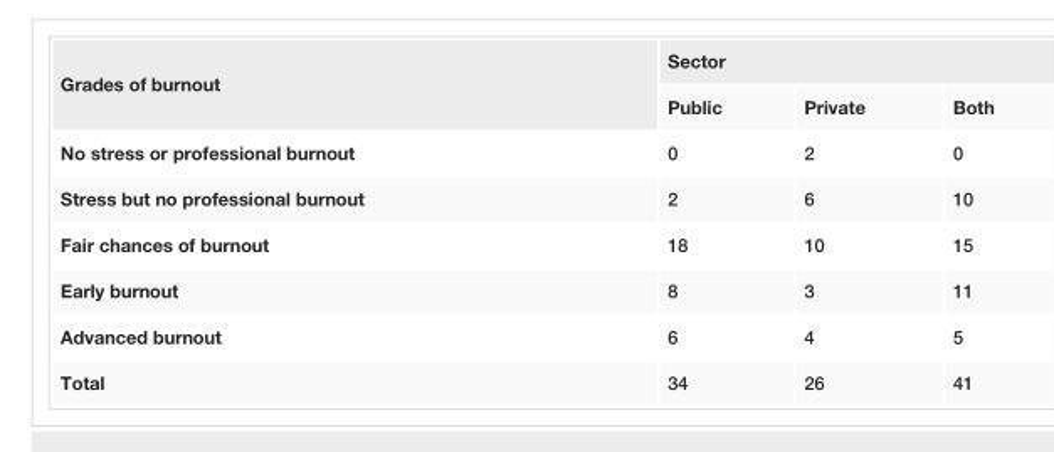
<table><tbody><tr><td rowspan="2">Grades of burnout</td><td colspan="3">Sector</td></tr><tr><td>Public</td><td>Private</td><td>Both</td></tr><tr><td>No stress or professional burnout</td><td>0</td><td>2</td><td>0</td></tr><tr><td>Stress but no professional burnout</td><td>2</td><td>6</td><td>10</td></tr><tr><td>Fair chances of burnout</td><td>18</td><td>10</td><td>15</td></tr><tr><td>Early burnout</td><td>8</td><td>3</td><td>11</td></tr><tr><td>Advanced burnout</td><td>6</td><td>4</td><td>5</td></tr><tr><td>Total</td><td>34</td><td>26</td><td>41</td></tr></tbody></table>